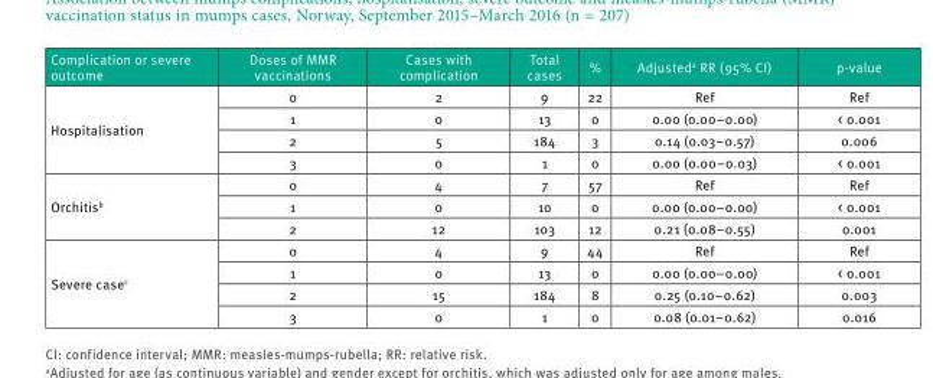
<table><thead><tr><td>Complication or severe outcome</td><td>Doses of MMR vaccinations</td><td>Cases with complication</td><td>Total cases</td><td>%</td><td>Adjusted<sup>a</sup> RR (95% CI)</td><td>p-value</td></tr></thead><tbody><tr><td rowspan="4">Hospitalisation</td><td>0</td><td>2</td><td>9</td><td>22</td><td>Ref</td><td>Ref</td></tr><tr><td>1</td><td>0</td><td>13</td><td>0</td><td>0.00 (0.00–0.00)</td><td>&lt; 0.001</td></tr><tr><td>2</td><td>5</td><td>184</td><td>3</td><td>0.14 (0.03–0.57)</td><td>0.006</td></tr><tr><td>3</td><td>0</td><td>1</td><td>0</td><td>0.00 (0.00–0.03)</td><td>&lt; 0.001</td></tr><tr><td rowspan="3">Orchitis<sup>b</sup></td><td>0</td><td>4</td><td>7</td><td>57</td><td>Ref</td><td>Ref</td></tr><tr><td>1</td><td>0</td><td>10</td><td>0</td><td>0.00 (0.00–0.00)</td><td>&lt; 0.001</td></tr><tr><td>2</td><td>12</td><td>103</td><td>12</td><td>0.21 (0.08–0.55)</td><td>0.001</td></tr><tr><td rowspan="4">Severe case<sup>c</sup></td><td>0</td><td>4</td><td>9</td><td>44</td><td>Ref</td><td>Ref</td></tr><tr><td>1</td><td>0</td><td>13</td><td>0</td><td>0.00 (0.00–0.00)</td><td>&lt; 0.001</td></tr><tr><td>2</td><td>15</td><td>184</td><td>8</td><td>0.25 (0.10–0.62)</td><td>0.003</td></tr><tr><td>3</td><td>0</td><td>1</td><td>0</td><td>0.08 (0.01–0.62)</td><td>0.016</td></tr></tbody></table>